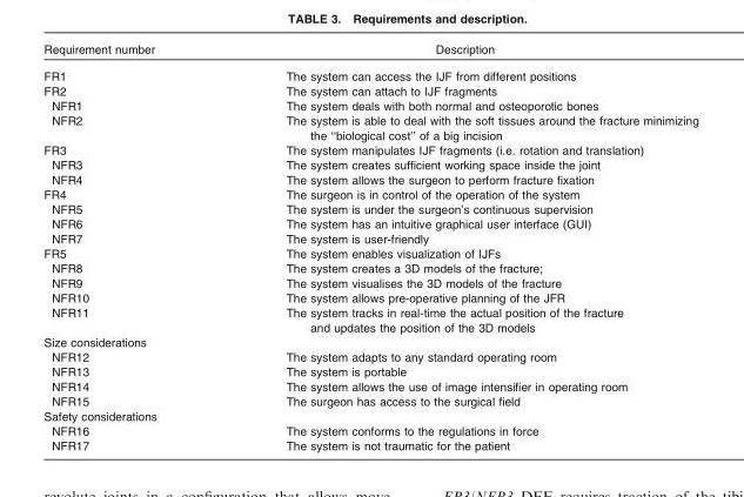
<table><thead><tr><td>Requirement number</td><td>Description</td></tr></thead><tbody><tr><td>FR1</td><td>The system can access the IJF from different positions</td></tr><tr><td>FR2</td><td>The system can attach to IJF fragments</td></tr><tr><td>NFR1</td><td>The system deals with both normal and osteoporotic bones</td></tr><tr><td>NFR2</td><td>The system is able to deal with the soft tissues around the fracture minimizing the ‘‘biological cost’’ of a big incision</td></tr><tr><td>FR3</td><td>The system manipulates IJF fragments (i.e. rotation and translation)</td></tr><tr><td>NFR3</td><td>The system creates sufficient working space inside the joint</td></tr><tr><td>NFR4</td><td>The system allows the surgeon to perform fracture fixation</td></tr><tr><td>FR4</td><td>The surgeon is in control of the operation of the system</td></tr><tr><td>NFR5</td><td>The system is under the surgeon’s continuous supervision</td></tr><tr><td>NFR6</td><td>The system has an intuitive graphical user interface (GUI)</td></tr><tr><td>NFR7</td><td>The system is user-friendly</td></tr><tr><td>FR5</td><td>The system enables visualization of IJFs</td></tr><tr><td>NFR8</td><td>The system creates a 3D models of the fracture;</td></tr><tr><td>NFR9</td><td>The system visualises the 3D models of the fracture</td></tr><tr><td>NFR10</td><td>The system allows pre-operative planning of the JFR</td></tr><tr><td>NFR11</td><td>The system tracks in real-time the actual position of the fracture and updates the position of the 3D models</td></tr><tr><td colspan="2">Size considerations</td></tr><tr><td>NFR12</td><td>The system adapts to any standard operating room</td></tr><tr><td>NFR13</td><td>The system is portable</td></tr><tr><td>NFR14</td><td>The system allows the use of image intensifier in operating room</td></tr><tr><td>NFR15</td><td>The surgeon has access to the surgical field</td></tr><tr><td colspan="2">Safety considerations</td></tr><tr><td>NFR16</td><td>The system conforms to the regulations in force</td></tr><tr><td>NFR17</td><td>The system is not traumatic for the patient</td></tr></tbody></table>